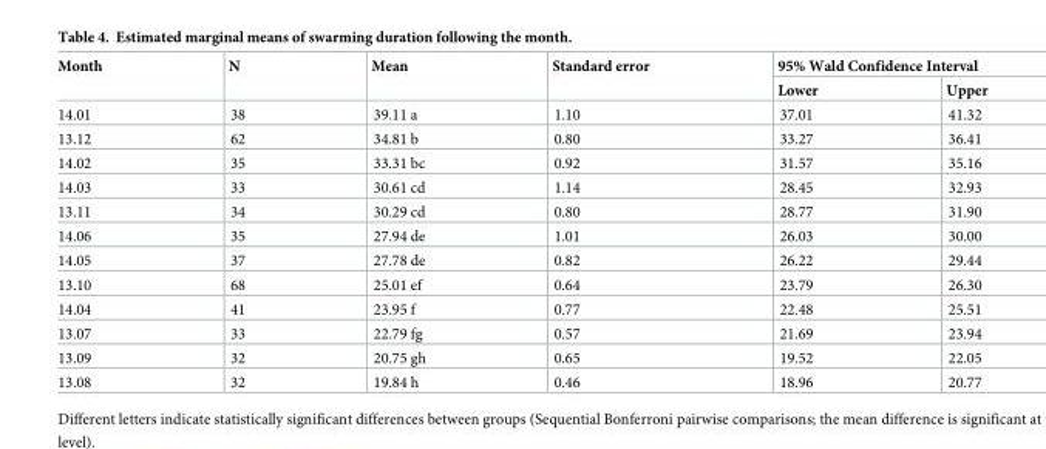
<table><thead><tr><td rowspan="2">Month</td><td rowspan="2">N</td><td rowspan="2">Mean</td><td rowspan="2">Standard error</td><td colspan="2">95% Wald Confidence Interval</td></tr><tr><td>Lower</td><td>Upper</td></tr></thead><tbody><tr><td>14.01</td><td>38</td><td>39.11 a</td><td>1.10</td><td>37.01</td><td>41.32</td></tr><tr><td>13.12</td><td>62</td><td>34.81 b</td><td>0.80</td><td>33.27</td><td>36.41</td></tr><tr><td>14.02</td><td>35</td><td>33.31 bc</td><td>0.92</td><td>31.57</td><td>35.16</td></tr><tr><td>14.03</td><td>33</td><td>30.61 cd</td><td>1.14</td><td>28.45</td><td>32.93</td></tr><tr><td>13.11</td><td>34</td><td>30.29 cd</td><td>0.80</td><td>28.77</td><td>31.90</td></tr><tr><td>14.06</td><td>35</td><td>27.94 de</td><td>1.01</td><td>26.03</td><td>30.00</td></tr><tr><td>14.05</td><td>37</td><td>27.78 de</td><td>0.82</td><td>26.22</td><td>29.44</td></tr><tr><td>13.10</td><td>68</td><td>25.01 ef</td><td>0.64</td><td>23.79</td><td>26.30</td></tr><tr><td>14.04</td><td>41</td><td>23.95 f</td><td>0.77</td><td>22.48</td><td>25.51</td></tr><tr><td>13.07</td><td>33</td><td>22.79 fg</td><td>0.57</td><td>21.69</td><td>23.94</td></tr><tr><td>13.09</td><td>32</td><td>20.75 gh</td><td>0.65</td><td>19.52</td><td>22.05</td></tr><tr><td>13.08</td><td>32</td><td>19.84 h</td><td>0.46</td><td>18.96</td><td>20.77</td></tr></tbody></table>